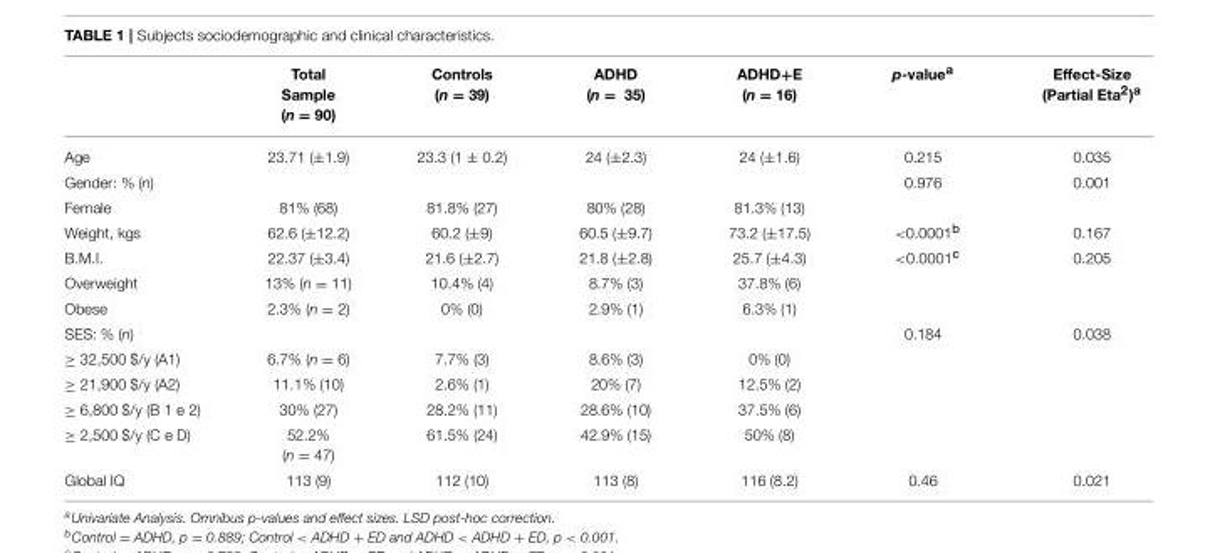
<table><thead><tr><td></td><td>Total Sample (n = 90)</td><td>Controls (n = 39)</td><td>ADHD (n = 35)</td><td>ADHD+E (n = 16)</td><td>p-value<sup>a</sup></td><td>Effect-Size (Partial Eta<sup>2</sup>)<sup>a</sup></td></tr></thead><tbody><tr><td>Age</td><td>23.71 (±1.9)</td><td>23.3 (1 ± 0.2)</td><td>24 (±2.3)</td><td>24 (±1.6)</td><td>0.215</td><td>0.035</td></tr><tr><td>Gender: % (n)</td><td></td><td></td><td></td><td></td><td>0.976</td><td>0.001</td></tr><tr><td>Female</td><td>81% (68)</td><td>81.8% (27)</td><td>80% (28)</td><td>81.3% (13)</td><td></td><td></td></tr><tr><td>Weight, kgs</td><td>62.6 (±12.2)</td><td>60.2 (±9)</td><td>60.5 (±9.7)</td><td>73.2 (±17.5)</td><td>&lt;0.0001<sup>b</sup></td><td>0.167</td></tr><tr><td>B.M.I.</td><td>22.37 (±3.4)</td><td>21.6 (±2.7)</td><td>21.8 (±2.8)</td><td>25.7 (±4.3)</td><td>&lt;0.0001<sup>c</sup></td><td>0.205</td></tr><tr><td>Overweight</td><td>13% (n = 11)</td><td>10.4% (4)</td><td>8.7% (3)</td><td>37.8% (6)</td><td></td><td></td></tr><tr><td>Obese</td><td>2.3% (n = 2)</td><td>0% (0)</td><td>2.9% (1)</td><td>6.3% (1)</td><td></td><td></td></tr><tr><td>SES: % (n)</td><td></td><td></td><td></td><td></td><td>0.184</td><td>0.038</td></tr><tr><td>≥ 32,500 $/y (A1)</td><td>6.7% (n = 6)</td><td>7.7% (3)</td><td>8.6% (3)</td><td>0% (0)</td><td></td><td></td></tr><tr><td>≥ 21,900 $/y (A2)</td><td>11.1% (10)</td><td>2.6% (1)</td><td>20% (7)</td><td>12.5% (2)</td><td></td><td></td></tr><tr><td>≥ 6,800 $/y (B 1 e 2)</td><td>30% (27)</td><td>28.2% (11)</td><td>28.6% (10)</td><td>37.5% (6)</td><td></td><td></td></tr><tr><td>≥ 2,500 $/y (C e D)</td><td>52.2% (n = 47)</td><td>61.5% (24)</td><td>42.9% (15)</td><td>50% (8)</td><td></td><td></td></tr><tr><td>Global IQ</td><td>113 (9)</td><td>112 (10)</td><td>113 (8)</td><td>116 (8.2)</td><td>0.46</td><td>0.021</td></tr></tbody></table>